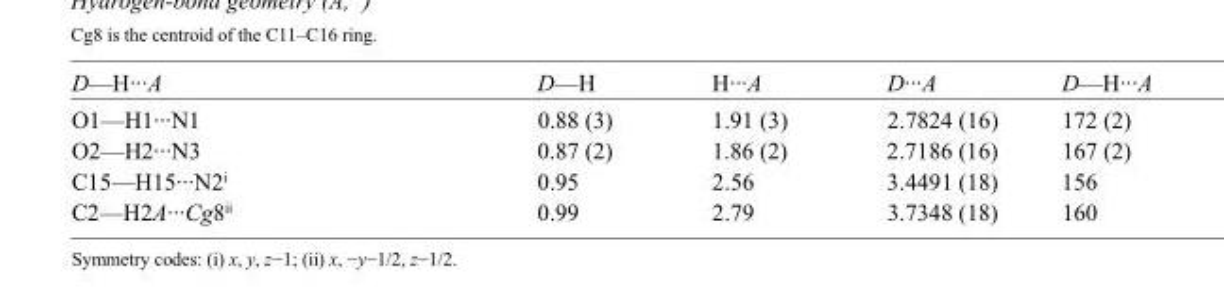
<table><tbody><tr><td>D—H···A</td><td>D—H</td><td>H···A</td><td>D···A</td><td>D—H···A</td></tr><tr><td>O1—H1···N1</td><td>0.88 (3)</td><td>1.91 (3)</td><td>2.7824 (16)</td><td>172 (2)</td></tr><tr><td>O2—H2···N3</td><td>0.87 (2)</td><td>1.86 (2)</td><td>2.7186 (16)</td><td>167 (2)</td></tr><tr><td>C15—H15···N2<sup>i</sup></td><td>0.95</td><td>2.56</td><td>3.4491 (18)</td><td>156</td></tr><tr><td>C2—H2A···Cg8<sup>ii</sup></td><td>0.99</td><td>2.79</td><td>3.7348 (18)</td><td>160</td></tr></tbody></table>